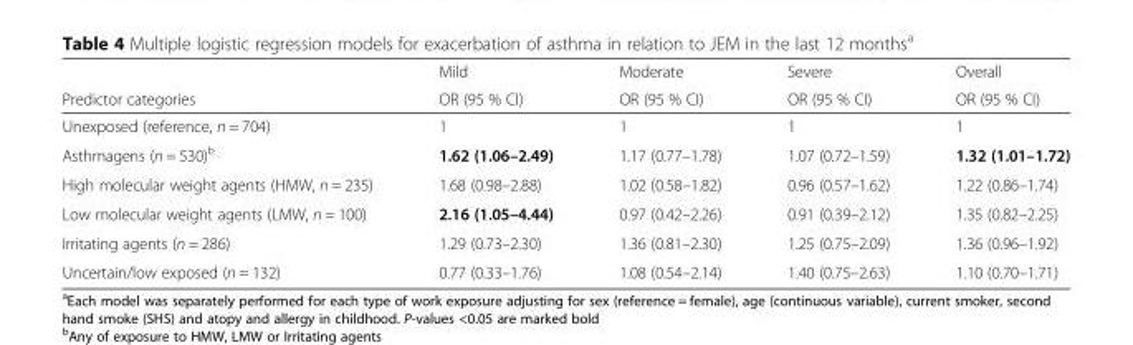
<table><thead><tr><td rowspan="2">Predictor categories</td><td rowspan="2">Mild OR (95 % CI)</td><td rowspan="2">Moderate OR (95 % CI)</td><td rowspan="2">Severe OR (95 % CI)</td><td rowspan="2">Overall OR (95 % CI)</td></tr><tr></tr></thead><tbody><tr><td>Unexposed (reference, n = 704)</td><td>1</td><td>1</td><td>1</td><td>1</td></tr><tr><td>Asthmagens (n = 530)<sup>b</sup></td><td>1.62 (1.06–2.49)</td><td>1.17 (0.77–1.78)</td><td>1.07 (0.72–1.59)</td><td>1.32 (1.01–1.72)</td></tr><tr><td>High molecular weight agents (HMW, n = 235)</td><td>1.68 (0.98–2.88)</td><td>1.02 (0.58–1.82)</td><td>0.96 (0.57–1.62)</td><td>1.22 (0.86–1.74)</td></tr><tr><td>Low molecular weight agents (LMW, n = 100)</td><td>2.16 (1.05–4.44)</td><td>0.97 (0.42–2.26)</td><td>0.91 (0.39–2.12)</td><td>1.35 (0.82–2.25)</td></tr><tr><td>Irritating agents (n = 286)</td><td>1.29 (0.73–2.30)</td><td>1.36 (0.81–2.30)</td><td>1.25 (0.75–2.09)</td><td>1.36 (0.96–1.92)</td></tr><tr><td>Uncertain/low exposed (n = 132)</td><td>0.77 (0.33–1.76)</td><td>1.08 (0.54–2.14)</td><td>1.40 (0.75–2.63)</td><td>1.10 (0.70–1.71)</td></tr></tbody></table>